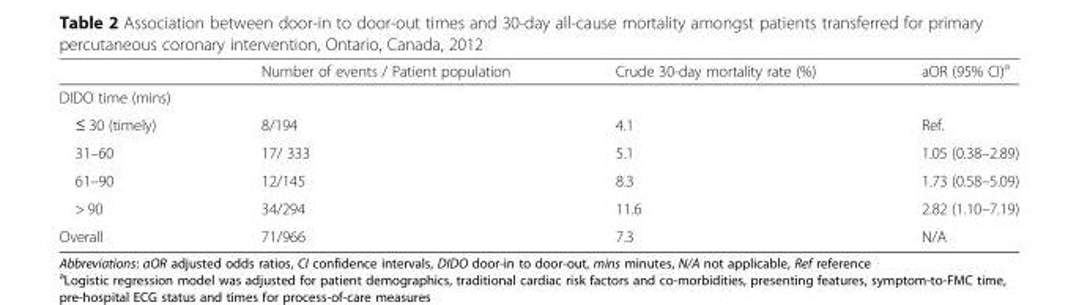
<table><thead><tr><td></td><td>Number of events / Patient population</td><td>Crude 30-day mortality rate (%)</td><td>aOR (95% CI)<sup>a</sup></td></tr></thead><tbody><tr><td colspan="4">DIDO time (mins)</td></tr><tr><td>≤ 30 (timely)</td><td>8/194</td><td>4.1</td><td>Ref.</td></tr><tr><td>31–60</td><td>17/ 333</td><td>5.1</td><td>1.05 (0.38–2.89)</td></tr><tr><td>61–90</td><td>12/145</td><td>8.3</td><td>1.73 (0.58–5.09)</td></tr><tr><td>&gt; 90</td><td>34/294</td><td>11.6</td><td>2.82 (1.10–7.19)</td></tr><tr><td>Overall</td><td>71/966</td><td>7.3</td><td>N/A</td></tr></tbody></table>